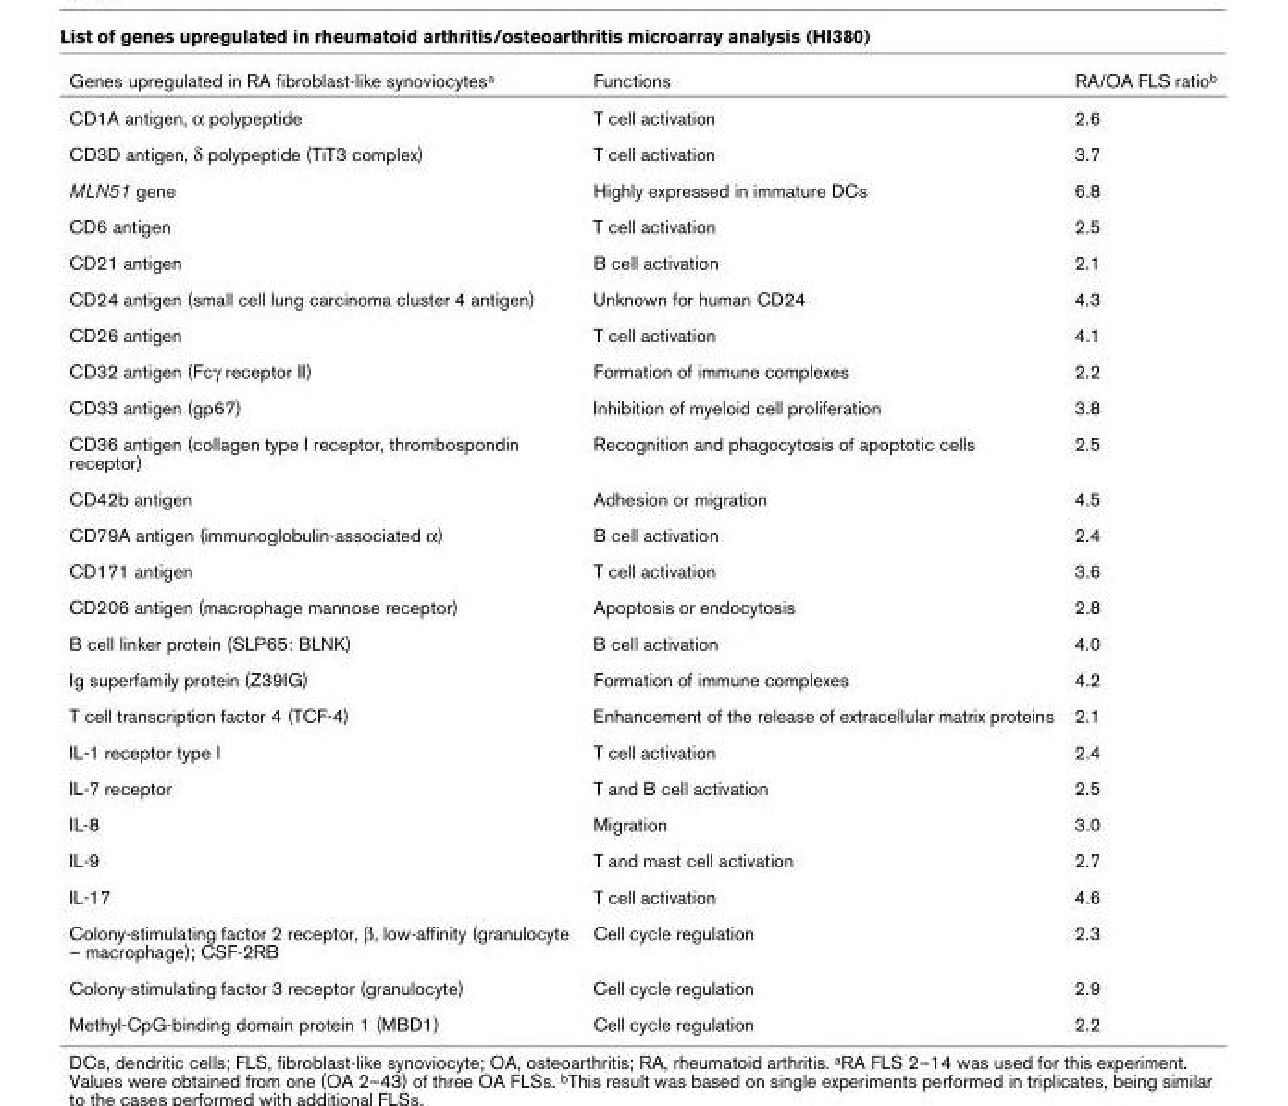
<table><thead><tr><td>Genes upregulated in RA fibroblast-like synoviocytesa</td><td>Functions</td><td>RA/OA FLS ratiob</td></tr></thead><tbody><tr><td>CD1A antigen, α polypeptide</td><td>T cell activation</td><td>2.6</td></tr><tr><td>CD3D antigen, δ polypeptide (TiT3 complex)</td><td>T cell activation</td><td>3.7</td></tr><tr><td>MLN51 gene</td><td>Highly expressed in immature DCs</td><td>6.8</td></tr><tr><td>CD6 antigen</td><td>T cell activation</td><td>2.5</td></tr><tr><td>CD21 antigen</td><td>B cell activation</td><td>2.1</td></tr><tr><td>CD24 antigen (small cell lung carcinoma cluster 4 antigen)</td><td>Unknown for human CD24</td><td>4.3</td></tr><tr><td>CD26 antigen</td><td>T cell activation</td><td>4.1</td></tr><tr><td>CD32 antigen (Fcγ receptor II)</td><td>Formation of immune complexes</td><td>2.2</td></tr><tr><td>CD33 antigen (gp67)</td><td>Inhibition of myeloid cell proliferation</td><td>3.8</td></tr><tr><td>CD36 antigen (collagen type I receptor, thrombospondin receptor)</td><td>Recognition and phagocytosis of apoptotic cells</td><td>2.5</td></tr><tr><td>CD42b antigen</td><td>Adhesion or migration</td><td>4.5</td></tr><tr><td>CD79A antigen (immunoglobulin-associated α)</td><td>B cell activation</td><td>2.4</td></tr><tr><td>CD171 antigen</td><td>T cell activation</td><td>3.6</td></tr><tr><td>CD206 antigen (macrophage mannose receptor)</td><td>Apoptosis or endocytosis</td><td>2.8</td></tr><tr><td>B cell linker protein (SLP65: BLNK)</td><td>B cell activation</td><td>4.0</td></tr><tr><td>Ig superfamily protein (Z39IG)</td><td>Formation of immune complexes</td><td>4.2</td></tr><tr><td>T cell transcription factor 4 (TCF-4)</td><td>Enhancement of the release of extracellular matrix proteins</td><td>2.1</td></tr><tr><td>IL-1 receptor type I</td><td>T cell activation</td><td>2.4</td></tr><tr><td>IL-7 receptor</td><td>T and B cell activation</td><td>2.5</td></tr><tr><td>IL-8</td><td>Migration</td><td>3.0</td></tr><tr><td>IL-9</td><td>T and mast cell activation</td><td>2.7</td></tr><tr><td>IL-17</td><td>T cell activation</td><td>4.6</td></tr><tr><td>Colony-stimulating factor 2 receptor, β, low-affinity (granulocyte – macrophage); CSF-2RB</td><td>Cell cycle regulation</td><td>2.3</td></tr><tr><td>Colony-stimulating factor 3 receptor (granulocyte)</td><td>Cell cycle regulation</td><td>2.9</td></tr><tr><td>Methyl-CpG-binding domain protein 1 (MBD1)</td><td>Cell cycle regulation</td><td>2.2</td></tr></tbody></table>